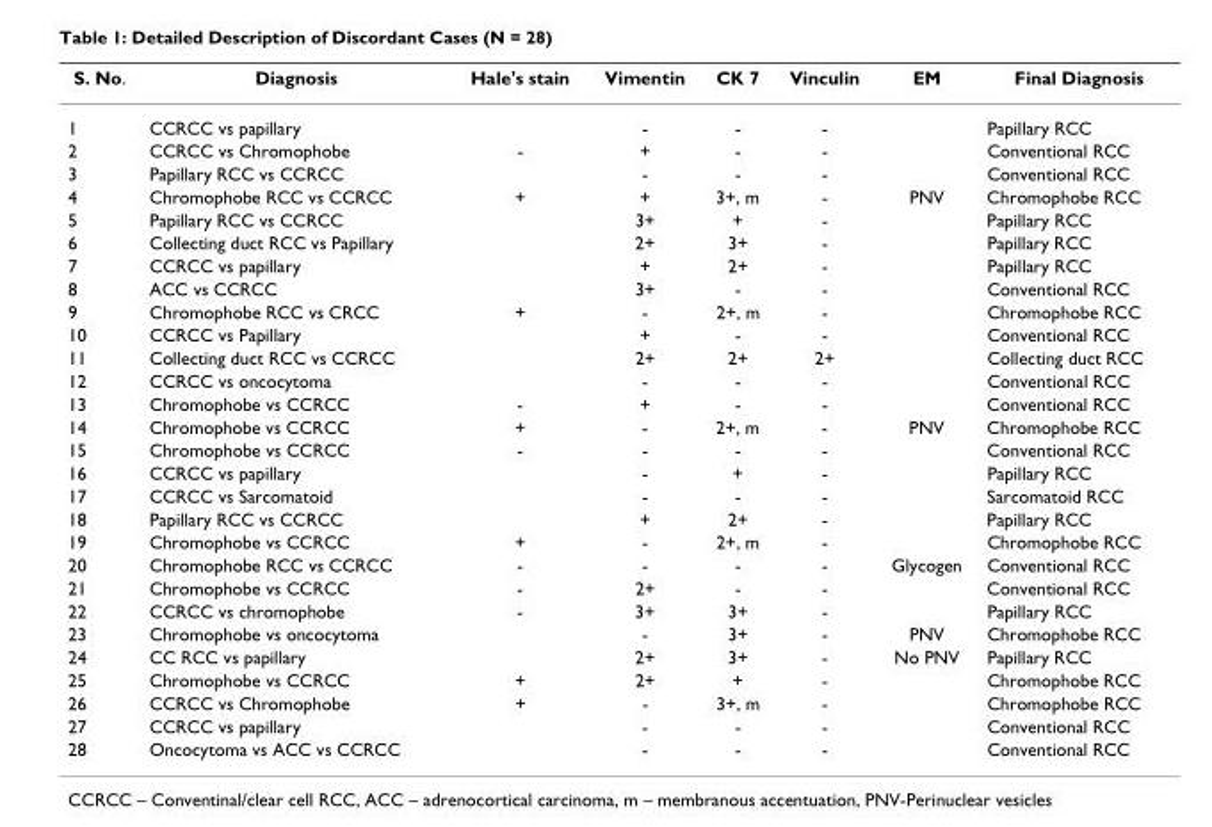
<table><thead><tr><td>S. No.</td><td>Diagnosis</td><td>Hale&#x27;s stain</td><td>Vimentin</td><td>CK 7</td><td>Vinculin</td><td>EM</td><td>Final Diagnosis</td></tr></thead><tbody><tr><td>1</td><td>CCRCC vs papillary</td><td></td><td>-</td><td>-</td><td>-</td><td></td><td>Papillary RCC</td></tr><tr><td>2</td><td>CCRCC vs Chromophobe</td><td>-</td><td>+</td><td>-</td><td>-</td><td></td><td>Conventional RCC</td></tr><tr><td>3</td><td>Papillary RCC vs CCRCC</td><td></td><td>-</td><td>-</td><td>-</td><td></td><td>Conventional RCC</td></tr><tr><td>4</td><td>Chromophobe RCC vs CCRCC</td><td>+</td><td>+</td><td>3+, m</td><td>-</td><td>PNV</td><td>Chromophobe RCC</td></tr><tr><td>5</td><td>Papillary RCC vs CCRCC</td><td></td><td>3+</td><td>+</td><td>-</td><td></td><td>Papillary RCC</td></tr><tr><td>6</td><td>Collecting duct RCC vs Papillary</td><td></td><td>2+</td><td>3+</td><td>-</td><td></td><td>Papillary RCC</td></tr><tr><td>7</td><td>CCRCC vs papillary</td><td></td><td>+</td><td>2+</td><td>-</td><td></td><td>Papillary RCC</td></tr><tr><td>8</td><td>ACC vs CCRCC</td><td></td><td>3+</td><td>-</td><td>-</td><td></td><td>Conventional RCC</td></tr><tr><td>9</td><td>Chromophobe RCC vs CRCC</td><td>+</td><td>-</td><td>2+, m</td><td>-</td><td></td><td>Chromophobe RCC</td></tr><tr><td>10</td><td>CCRCC vs Papillary</td><td></td><td>+</td><td>-</td><td>-</td><td></td><td>Conventional RCC</td></tr><tr><td>11</td><td>Collecting duct RCC vs CCRCC</td><td></td><td>2+</td><td>2+</td><td>2+</td><td></td><td>Collecting duct RCC</td></tr><tr><td>12</td><td>CCRCC vs oncocytoma</td><td></td><td>-</td><td>-</td><td>-</td><td></td><td>Conventional RCC</td></tr><tr><td>13</td><td>Chromophobe vs CCRCC</td><td>-</td><td>+</td><td>-</td><td>-</td><td></td><td>Conventional RCC</td></tr><tr><td>14</td><td>Chromophobe vs CCRCC</td><td>+</td><td>-</td><td>2+, m</td><td>-</td><td>PNV</td><td>Chromophobe RCC</td></tr><tr><td>15</td><td>Chromophobe vs CCRCC</td><td>-</td><td>-</td><td>-</td><td>-</td><td></td><td>Conventional RCC</td></tr><tr><td>16</td><td>CCRCC vs papillary</td><td></td><td>-</td><td>+</td><td>-</td><td></td><td>Papillary RCC</td></tr><tr><td>17</td><td>CCRCC vs Sarcomatoid</td><td></td><td>-</td><td>-</td><td>-</td><td></td><td>Sarcomatoid RCC</td></tr><tr><td>18</td><td>Papillary RCC vs CCRCC</td><td></td><td>+</td><td>2+</td><td>-</td><td></td><td>Papillary RCC</td></tr><tr><td>19</td><td>Chromophobe vs CCRCC</td><td>+</td><td>-</td><td>2+, m</td><td>-</td><td></td><td>Chromophobe RCC</td></tr><tr><td>20</td><td>Chromophobe RCC vs CCRCC</td><td>-</td><td>-</td><td>-</td><td>-</td><td>Glycogen</td><td>Conventional RCC</td></tr><tr><td>21</td><td>Chromophobe vs CCRCC</td><td>-</td><td>2+</td><td>-</td><td>-</td><td></td><td>Conventional RCC</td></tr><tr><td>22</td><td>CCRCC vs chromophobe</td><td>-</td><td>3+</td><td>3+</td><td>-</td><td></td><td>Papillary RCC</td></tr><tr><td>23</td><td>Chromophobe vs oncocytoma</td><td></td><td>-</td><td>3+</td><td>-</td><td>PNV</td><td>Chromophobe RCC</td></tr><tr><td>24</td><td>CC RCC vs papillary</td><td></td><td>2+</td><td>3+</td><td>-</td><td>No PNV</td><td>Papillary RCC</td></tr><tr><td>25</td><td>Chromophobe vs CCRCC</td><td>+</td><td>2+</td><td>+</td><td>-</td><td></td><td>Chromophobe RCC</td></tr><tr><td>26</td><td>CCRCC vs Chromophobe</td><td>+</td><td>-</td><td>3+, m</td><td>-</td><td></td><td>Chromophobe RCC</td></tr><tr><td>27</td><td>CCRCC vs papillary</td><td></td><td>-</td><td>-</td><td>-</td><td></td><td>Conventional RCC</td></tr><tr><td>28</td><td>Oncocytoma vs ACC vs CCRCC</td><td></td><td>-</td><td>-</td><td>-</td><td></td><td>Conventional RCC</td></tr></tbody></table>